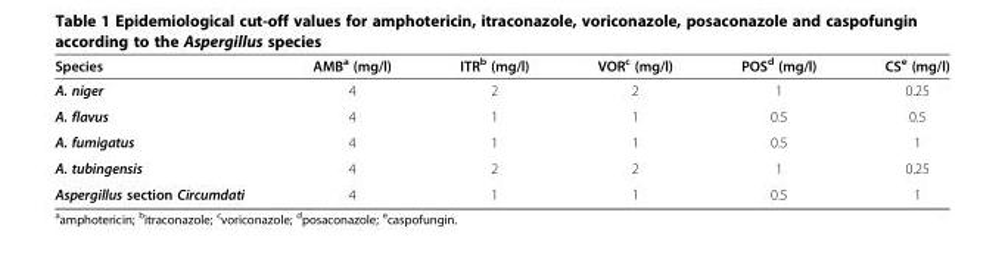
<table><thead><tr><td>Species</td><td>AMB<sup>a</sup> (mg/l)</td><td>ITR<sup>b</sup> (mg/l)</td><td>VOR<sup>c</sup> (mg/l)</td><td>POS<sup>d</sup> (mg/l)</td><td>CS<sup>e</sup> (mg/l)</td></tr></thead><tbody><tr><td>A. niger</td><td>4</td><td>2</td><td>2</td><td>1</td><td>0.25</td></tr><tr><td>A. flavus</td><td>4</td><td>1</td><td>1</td><td>0.5</td><td>0.5</td></tr><tr><td>A. fumigatus</td><td>4</td><td>1</td><td>1</td><td>0.5</td><td>1</td></tr><tr><td>A. tubingensis</td><td>4</td><td>2</td><td>2</td><td>1</td><td>0.25</td></tr><tr><td>Aspergillus section Circumdati</td><td>4</td><td>1</td><td>1</td><td>0.5</td><td>1</td></tr></tbody></table>